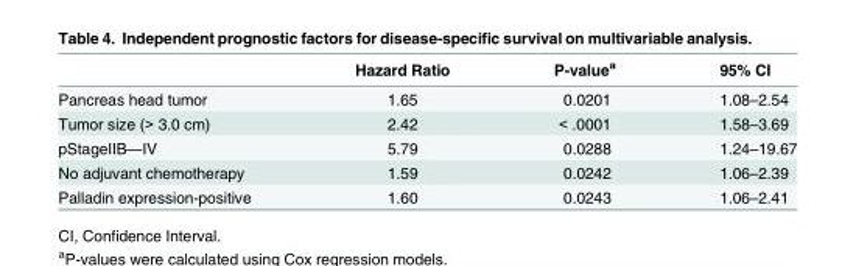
<table><thead><tr><td></td><td>Hazard Ratio</td><td>P-value<sup>a</sup></td><td>95% CI</td></tr></thead><tbody><tr><td>Pancreas head tumor</td><td>1.65</td><td>0.0201</td><td>1.08–2.54</td></tr><tr><td>Tumor size (&gt; 3.0 cm)</td><td>2.42</td><td>&lt; .0001</td><td>1.58–3.69</td></tr><tr><td>pStageIIB—IV</td><td>5.79</td><td>0.0288</td><td>1.24–19.67</td></tr><tr><td>No adjuvant chemotherapy</td><td>1.59</td><td>0.0242</td><td>1.06–2.39</td></tr><tr><td>Palladin expression-positive</td><td>1.60</td><td>0.0243</td><td>1.06–2.41</td></tr></tbody></table>